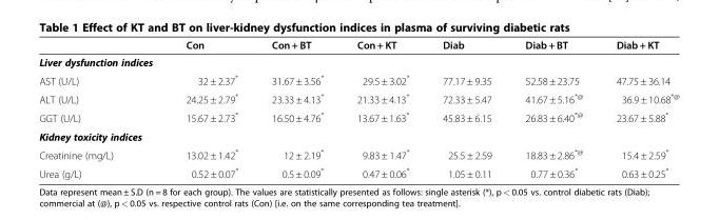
<table><thead><tr><td></td><td>Con</td><td>Con + BT</td><td>Con + KT</td><td>Diab</td><td>Diab + BT</td><td>Diab + KT</td></tr></thead><tbody><tr><td colspan="7">Liver dysfunction indices</td></tr><tr><td>AST (U/L)</td><td>32 ± 2.37*</td><td>31.67 ± 3.56*</td><td>29.5 ± 3.02*</td><td>77.17 ± 9.35</td><td>52.58 ± 23.75</td><td>47.75 ± 36.14</td></tr><tr><td>ALT (U/L)</td><td>24.25 ± 2.79*</td><td>23.33 ± 4.13*</td><td>21.33 ± 4.13*</td><td>72.33 ± 5.47</td><td>41.67 ± 5.16<sup>*@</sup></td><td>36.9 ± 10.68<sup>*@</sup></td></tr><tr><td>GGT (U/L)</td><td>15.67 ± 2.73*</td><td>16.50 ± 4.76*</td><td>13.67 ± 1.63*</td><td>45.83 ± 6.15</td><td>26.83 ± 6.40<sup>*@</sup></td><td>23.67 ± 5.88*</td></tr><tr><td colspan="7">Kidney toxicity indices</td></tr><tr><td>Creatinine (mg/L)</td><td>13.02 ± 1.42*</td><td>12 ± 2.19*</td><td>9.83 ± 1.47*</td><td>25.5 ± 2.59</td><td>18.83 ± 2.86<sup>*@</sup></td><td>15.4 ± 2.59*</td></tr><tr><td>Urea (g/L)</td><td>0.52 ± 0.07*</td><td>0.5 ± 0.09*</td><td>0.47 ± 0.06*</td><td>1.05 ± 0.11</td><td>0.77 ± 0.36*</td><td>0.63 ± 0.25*</td></tr></tbody></table>